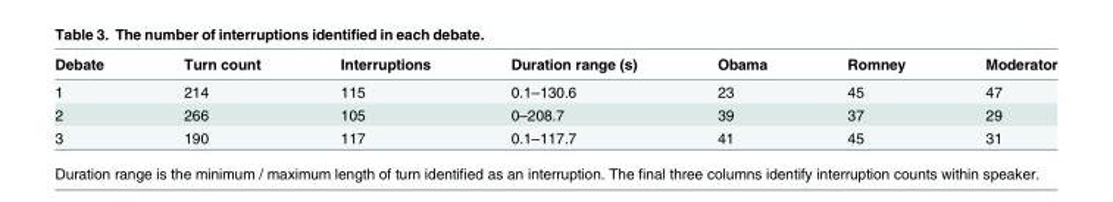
<table><thead><tr><td>Debate</td><td>Turn count</td><td>Interruptions</td><td>Duration range (s)</td><td>Obama</td><td>Romney</td><td>Moderator</td></tr></thead><tbody><tr><td>1</td><td>214</td><td>115</td><td>0.1–130.6</td><td>23</td><td>45</td><td>47</td></tr><tr><td>2</td><td>266</td><td>105</td><td>0–208.7</td><td>39</td><td>37</td><td>29</td></tr><tr><td>3</td><td>190</td><td>117</td><td>0.1–117.7</td><td>41</td><td>45</td><td>31</td></tr></tbody></table>